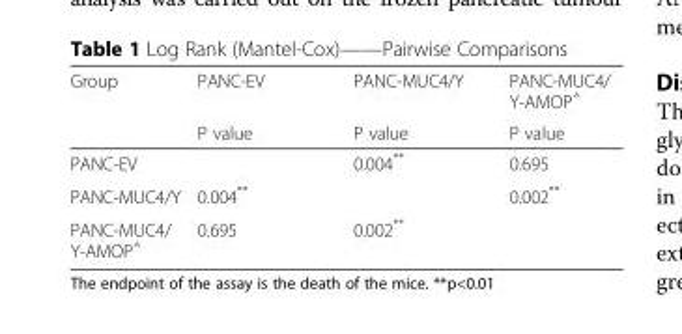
<table><thead><tr><td rowspan="2">Group</td><td rowspan="2">PANC-EV P value</td><td rowspan="2">PANC-MUC4/Y P value</td><td rowspan="2">PANC-MUC4/ Y-AMOP△ P value</td></tr><tr></tr></thead><tbody><tr><td>PANC-EV</td><td></td><td>0.004**</td><td>0.695</td></tr><tr><td>PANC-MUC4/Y</td><td>0.004**</td><td></td><td>0.002**</td></tr><tr><td>PANC-MUC4/ Y-AMOP<sup>△</sup></td><td>0.695</td><td>0.002**</td><td></td></tr></tbody></table>